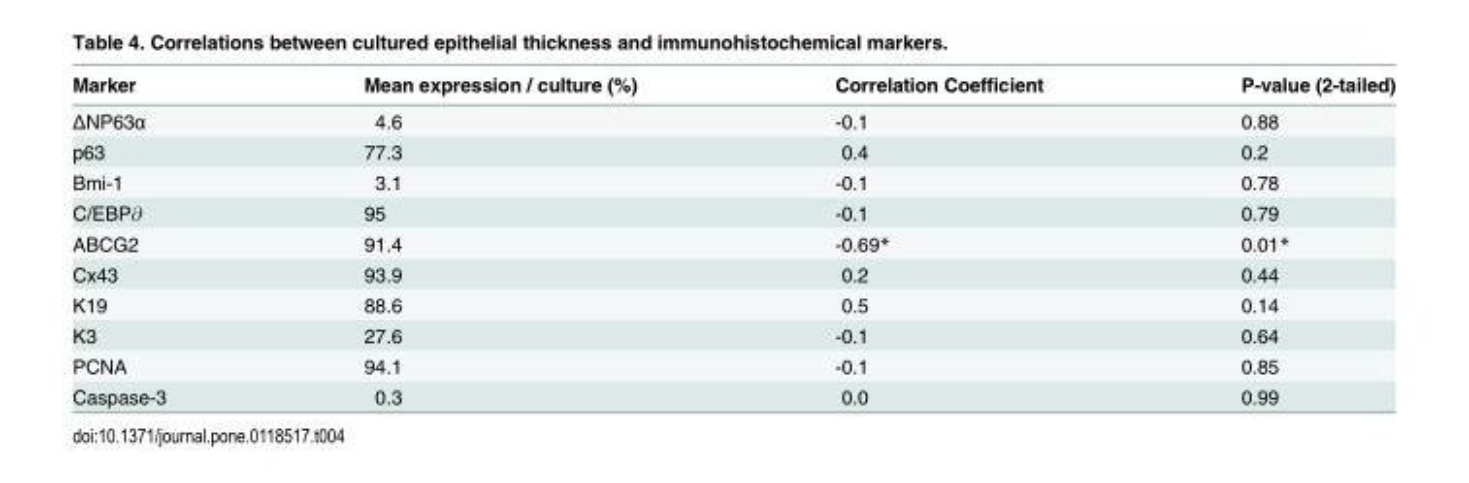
<table><thead><tr><td>Marker</td><td>Mean expression / culture (%)</td><td>Correlation Coefficient</td><td>P-value (2-tailed)</td></tr></thead><tbody><tr><td>ΔNP63α</td><td>4.6</td><td>-0.1</td><td>0.88</td></tr><tr><td>p63</td><td>77.3</td><td>0.4</td><td>0.2</td></tr><tr><td>Bmi-1</td><td>3.1</td><td>-0.1</td><td>0.78</td></tr><tr><td>C/EBP∂</td><td>95</td><td>-0.1</td><td>0.79</td></tr><tr><td>ABCG2</td><td>91.4</td><td>-0.69*</td><td>0.01*</td></tr><tr><td>Cx43</td><td>93.9</td><td>0.2</td><td>0.44</td></tr><tr><td>K19</td><td>88.6</td><td>0.5</td><td>0.14</td></tr><tr><td>K3</td><td>27.6</td><td>-0.1</td><td>0.64</td></tr><tr><td>PCNA</td><td>94.1</td><td>-0.1</td><td>0.85</td></tr><tr><td>Caspase-3</td><td>0.3</td><td>0.0</td><td>0.99</td></tr></tbody></table>